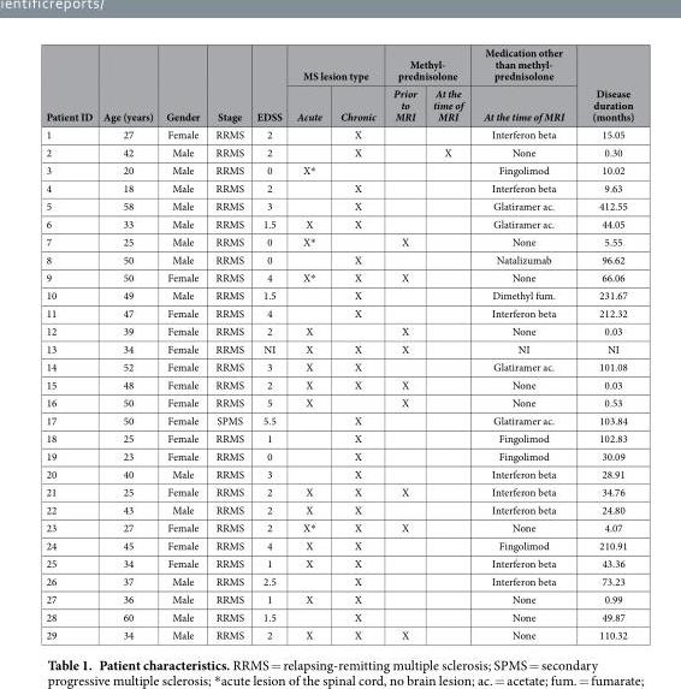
<table><thead><tr><td rowspan="2">Patient ID</td><td rowspan="2">Age (years)</td><td rowspan="2">Gender</td><td rowspan="2">Stage</td><td rowspan="2">EDSS</td><td colspan="2">MS lesion type</td><td colspan="2">Methyl- prednisolone</td><td rowspan="2">Medication other than methyl- prednisolone At the time of MRI</td><td rowspan="2">Disease duration (months)</td></tr><tr><td>Acute</td><td>Chronic</td><td>Prior to MRI</td><td>At the time of MRI</td></tr></thead><tbody><tr><td>1</td><td>27</td><td>Female</td><td>RRMS</td><td>2</td><td></td><td>X</td><td></td><td></td><td>Interferon beta</td><td>15.05</td></tr><tr><td>2</td><td>42</td><td>Male</td><td>RRMS</td><td>2</td><td></td><td>X</td><td></td><td>X</td><td>None</td><td>0.30</td></tr><tr><td>3</td><td>20</td><td>Male</td><td>RRMS</td><td>0</td><td>X*</td><td></td><td></td><td></td><td>Fingolimod</td><td>10.02</td></tr><tr><td>4</td><td>18</td><td>Male</td><td>RRMS</td><td>2</td><td></td><td>X</td><td></td><td></td><td>Interferon beta</td><td>9.63</td></tr><tr><td>5</td><td>58</td><td>Male</td><td>RRMS</td><td>3</td><td></td><td>X</td><td></td><td></td><td>Glatiramer ac.</td><td>412.55</td></tr><tr><td>6</td><td>33</td><td>Male</td><td>RRMS</td><td>1.5</td><td>X</td><td>X</td><td></td><td></td><td>Glatiramer ac.</td><td>44.05</td></tr><tr><td>7</td><td>25</td><td>Male</td><td>RRMS</td><td>0</td><td>X*</td><td></td><td>X</td><td></td><td>None</td><td>5.55</td></tr><tr><td>8</td><td>50</td><td>Male</td><td>RRMS</td><td>0</td><td></td><td>X</td><td></td><td></td><td>Natalizumab</td><td>96.62</td></tr><tr><td>9</td><td>50</td><td>Female</td><td>RRMS</td><td>4</td><td>X*</td><td>X</td><td>X</td><td></td><td>None</td><td>66.06</td></tr><tr><td>10</td><td>49</td><td>Male</td><td>RRMS</td><td>1.5</td><td></td><td>X</td><td></td><td></td><td>Dimethyl fum.</td><td>231.67</td></tr><tr><td>11</td><td>47</td><td>Female</td><td>RRMS</td><td>4</td><td></td><td>X</td><td></td><td></td><td>Interferon beta</td><td>212.32</td></tr><tr><td>12</td><td>39</td><td>Female</td><td>RRMS</td><td>2</td><td>X</td><td></td><td>X</td><td></td><td>None</td><td>0.03</td></tr><tr><td>13</td><td>34</td><td>Female</td><td>RRMS</td><td>NI</td><td>X</td><td>X</td><td>X</td><td></td><td>NI</td><td>NI</td></tr><tr><td>14</td><td>52</td><td>Female</td><td>RRMS</td><td>3</td><td>X</td><td>X</td><td></td><td></td><td>Glatiramer ac.</td><td>101.08</td></tr><tr><td>15</td><td>48</td><td>Female</td><td>RRMS</td><td>2</td><td>X</td><td>X</td><td>X</td><td></td><td>None</td><td>0.03</td></tr><tr><td>16</td><td>50</td><td>Female</td><td>RRMS</td><td>5</td><td>X</td><td></td><td>X</td><td></td><td>None</td><td>0.53</td></tr><tr><td>17</td><td>50</td><td>Female</td><td>SPMS</td><td>5.5</td><td></td><td>X</td><td></td><td></td><td>Glatiramer ac.</td><td>103.84</td></tr><tr><td>18</td><td>25</td><td>Female</td><td>RRMS</td><td>1</td><td></td><td>X</td><td></td><td></td><td>Fingolimod</td><td>102.83</td></tr><tr><td>19</td><td>23</td><td>Female</td><td>RRMS</td><td>0</td><td></td><td>X</td><td></td><td></td><td>Fingolimod</td><td>30.09</td></tr><tr><td>20</td><td>40</td><td>Male</td><td>RRMS</td><td>3</td><td></td><td>X</td><td></td><td></td><td>Interferon beta</td><td>28.91</td></tr><tr><td>21</td><td>25</td><td>Female</td><td>RRMS</td><td>2</td><td>X</td><td>X</td><td>X</td><td></td><td>Interferon beta</td><td>34.76</td></tr><tr><td>22</td><td>43</td><td>Male</td><td>RRMS</td><td>2</td><td>X</td><td>X</td><td></td><td></td><td>Interferon beta</td><td>24.80</td></tr><tr><td>23</td><td>27</td><td>Female</td><td>RRMS</td><td>2</td><td>X*</td><td>X</td><td>X</td><td></td><td>None</td><td>4.07</td></tr><tr><td>24</td><td>45</td><td>Female</td><td>RRMS</td><td>4</td><td>X</td><td>X</td><td></td><td></td><td>Fingolimod</td><td>210.91</td></tr><tr><td>25</td><td>34</td><td>Female</td><td>RRMS</td><td>1</td><td>X</td><td>X</td><td></td><td></td><td>Interferon beta</td><td>43.36</td></tr><tr><td>26</td><td>37</td><td>Male</td><td>RRMS</td><td>2.5</td><td></td><td>X</td><td></td><td></td><td>Interferon beta</td><td>73.23</td></tr><tr><td>27</td><td>36</td><td>Male</td><td>RRMS</td><td>1</td><td>X</td><td>X</td><td></td><td></td><td>None</td><td>0.99</td></tr><tr><td>28</td><td>60</td><td>Male</td><td>RRMS</td><td>1.5</td><td></td><td>X</td><td></td><td></td><td>None</td><td>49.87</td></tr><tr><td>29</td><td>34</td><td>Male</td><td>RRMS</td><td>2</td><td>X</td><td>X</td><td>X</td><td></td><td>None</td><td>110.32</td></tr></tbody></table>